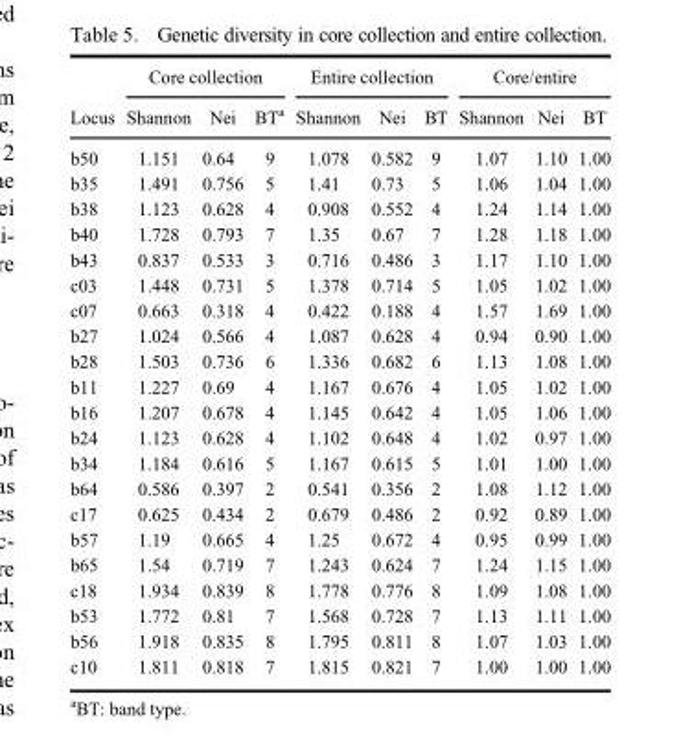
<table><thead><tr><td rowspan="2">Locus</td><td colspan="3">Core collection</td><td colspan="3">Entire collection</td><td colspan="3">Core/entire</td></tr><tr><td>Shannon</td><td>Nei</td><td>BT<sup>a</sup></td><td>Shannon</td><td>Nei</td><td>BT</td><td>Shannon</td><td>Nei</td><td>BT</td></tr></thead><tbody><tr><td>b50</td><td>1.151</td><td>0.64</td><td>9</td><td>1.078</td><td>0.582</td><td>9</td><td>1.07</td><td>1.10</td><td>1.00</td></tr><tr><td>b35</td><td>1.491</td><td>0.756</td><td>5</td><td>1.41</td><td>0.73</td><td>5</td><td>1.06</td><td>1.04</td><td>1.00</td></tr><tr><td>b38</td><td>1.123</td><td>0.628</td><td>4</td><td>0.908</td><td>0.552</td><td>4</td><td>1.24</td><td>1.14</td><td>1.00</td></tr><tr><td>b40</td><td>1.728</td><td>0.793</td><td>7</td><td>1.35</td><td>0.67</td><td>7</td><td>1.28</td><td>1.18</td><td>1.00</td></tr><tr><td>b43</td><td>0.837</td><td>0.533</td><td>3</td><td>0.716</td><td>0.486</td><td>3</td><td>1.17</td><td>1.10</td><td>1.00</td></tr><tr><td>c03</td><td>1.448</td><td>0.731</td><td>5</td><td>1.378</td><td>0.714</td><td>5</td><td>1.05</td><td>1.02</td><td>1.00</td></tr><tr><td>c07</td><td>0.663</td><td>0.318</td><td>4</td><td>0.422</td><td>0.188</td><td>4</td><td>1.57</td><td>1.69</td><td>1.00</td></tr><tr><td>b27</td><td>1.024</td><td>0.566</td><td>4</td><td>1.087</td><td>0.628</td><td>4</td><td>0.94</td><td>0.90</td><td>1.00</td></tr><tr><td>b28</td><td>1.503</td><td>0.736</td><td>6</td><td>1.336</td><td>0.682</td><td>6</td><td>1.13</td><td>1.08</td><td>1.00</td></tr><tr><td>b11</td><td>1.227</td><td>0.69</td><td>4</td><td>1.167</td><td>0.676</td><td>4</td><td>1.05</td><td>1.02</td><td>1.00</td></tr><tr><td>b16</td><td>1.207</td><td>0.678</td><td>4</td><td>1.145</td><td>0.642</td><td>4</td><td>1.05</td><td>1.06</td><td>1.00</td></tr><tr><td>b24</td><td>1.123</td><td>0.628</td><td>4</td><td>1.102</td><td>0.648</td><td>4</td><td>1.02</td><td>0.97</td><td>1.00</td></tr><tr><td>b34</td><td>1.184</td><td>0.616</td><td>5</td><td>1.167</td><td>0.615</td><td>5</td><td>1.01</td><td>1.00</td><td>1.00</td></tr><tr><td>b64</td><td>0.586</td><td>0.397</td><td>2</td><td>0.541</td><td>0.356</td><td>2</td><td>1.08</td><td>1.12</td><td>1.00</td></tr><tr><td>c17</td><td>0.625</td><td>0.434</td><td>2</td><td>0.679</td><td>0.486</td><td>2</td><td>0.92</td><td>0.89</td><td>1.00</td></tr><tr><td>b57</td><td>1.19</td><td>0.665</td><td>4</td><td>1.25</td><td>0.672</td><td>4</td><td>0.95</td><td>0.99</td><td>1.00</td></tr><tr><td>b65</td><td>1.54</td><td>0.719</td><td>7</td><td>1.243</td><td>0.624</td><td>7</td><td>1.24</td><td>1.15</td><td>1.00</td></tr><tr><td>c18</td><td>1.934</td><td>0.839</td><td>8</td><td>1.778</td><td>0.776</td><td>8</td><td>1.09</td><td>1.08</td><td>1.00</td></tr><tr><td>b53</td><td>1.772</td><td>0.81</td><td>7</td><td>1.568</td><td>0.728</td><td>7</td><td>1.13</td><td>1.11</td><td>1.00</td></tr><tr><td>b56</td><td>1.918</td><td>0.835</td><td>8</td><td>1.795</td><td>0.811</td><td>8</td><td>1.07</td><td>1.03</td><td>1.00</td></tr><tr><td>c10</td><td>1.811</td><td>0.818</td><td>7</td><td>1.815</td><td>0.821</td><td>7</td><td>1.00</td><td>1.00</td><td>1.00</td></tr></tbody></table>